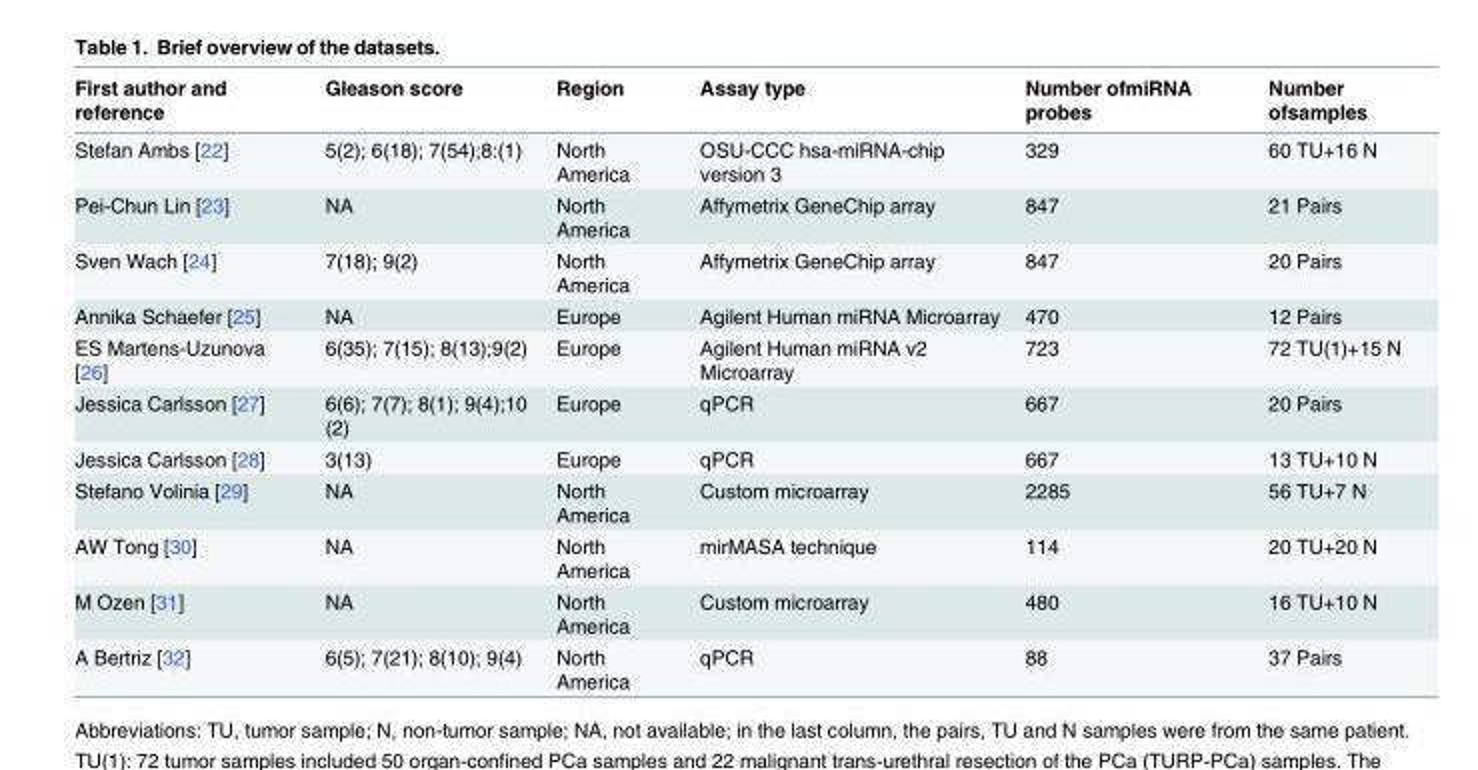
<table><thead><tr><td>First author and reference</td><td>Gleason score</td><td>Region</td><td>Assay type</td><td>Number ofmiRNA probes</td><td>Number ofsamples</td></tr></thead><tbody><tr><td>Stefan Ambs [22]</td><td>5(2); 6(18); 7(54);8:(1)</td><td>North America</td><td>OSU-CCC hsa-miRNA-chip version 3</td><td>329</td><td>60 TU+16 N</td></tr><tr><td>Pei-Chun Lin [23]</td><td>NA</td><td>North America</td><td>Affymetrix GeneChip array</td><td>847</td><td>21 Pairs</td></tr><tr><td>Sven Wach [24]</td><td>7(18); 9(2)</td><td>North America</td><td>Affymetrix GeneChip array</td><td>847</td><td>20 Pairs</td></tr><tr><td>Annika Schaefer [25]</td><td>NA</td><td>Europe</td><td>Agilent Human miRNA Microarray</td><td>470</td><td>12 Pairs</td></tr><tr><td>ES Martens-Uzunova [26]</td><td>6(35); 7(15); 8(13);9(2)</td><td>Europe</td><td>Agilent Human miRNA v2 Microarray</td><td>723</td><td>72 TU(1)+15 N</td></tr><tr><td>Jessica Carlsson [27]</td><td>6(6); 7(7); 8(1); 9(4);10 (2)</td><td>Europe</td><td>qPCR</td><td>667</td><td>20 Pairs</td></tr><tr><td>Jessica Carlsson [28]</td><td>3(13)</td><td>Europe</td><td>qPCR</td><td>667</td><td>13 TU+10 N</td></tr><tr><td>Stefano Volinia [29]</td><td>NA</td><td>North America</td><td>Custom microarray</td><td>2285</td><td>56 TU+7 N</td></tr><tr><td>AW Tong [30]</td><td>NA</td><td>North America</td><td>mirMASA technique</td><td>114</td><td>20 TU+20 N</td></tr><tr><td>M Ozen [31]</td><td>NA</td><td>North America</td><td>Custom microarray</td><td>480</td><td>16 TU+10 N</td></tr><tr><td>A Bertriz [32]</td><td>6(5); 7(21); 8(10); 9(4)</td><td>North America</td><td>qPCR</td><td>88</td><td>37 Pairs</td></tr></tbody></table>